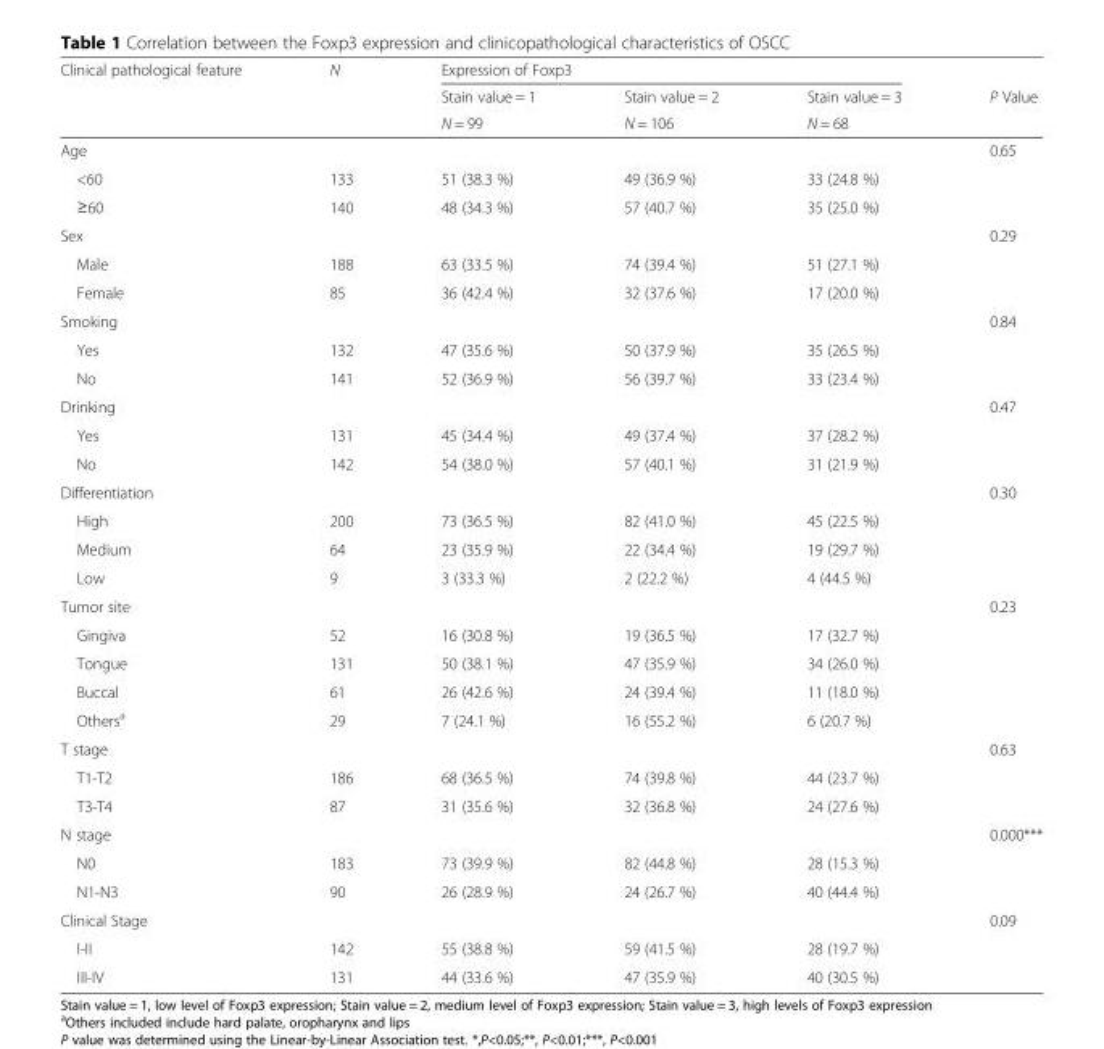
<table><thead><tr><td rowspan="3">Clinical pathological feature</td><td rowspan="3">N</td><td colspan="3">Expression of Foxp3</td><td rowspan="3">P Value</td></tr><tr><td rowspan="2">Stain value = 1 N = 99</td><td rowspan="2">Stain value = 2 N = 106</td><td rowspan="2">Stain value = 3 N = 68</td></tr><tr></tr></thead><tbody><tr><td>Age</td><td></td><td></td><td></td><td></td><td>0.65</td></tr><tr><td>&lt;60</td><td>133</td><td>51 (38.3 %)</td><td>49 (36.9 %)</td><td>33 (24.8 %)</td><td></td></tr><tr><td>≥60</td><td>140</td><td>48 (34.3 %)</td><td>57 (40.7 %)</td><td>35 (25.0 %)</td><td></td></tr><tr><td>Sex</td><td></td><td></td><td></td><td></td><td>0.29</td></tr><tr><td>Male</td><td>188</td><td>63 (33.5 %)</td><td>74 (39.4 %)</td><td>51 (27.1 %)</td><td></td></tr><tr><td>Female</td><td>85</td><td>36 (42.4 %)</td><td>32 (37.6 %)</td><td>17 (20.0 %)</td><td></td></tr><tr><td>Smoking</td><td></td><td></td><td></td><td></td><td>0.84</td></tr><tr><td>Yes</td><td>132</td><td>47 (35.6 %)</td><td>50 (37.9 %)</td><td>35 (26.5 %)</td><td></td></tr><tr><td>No</td><td>141</td><td>52 (36.9 %)</td><td>56 (39.7 %)</td><td>33 (23.4 %)</td><td></td></tr><tr><td>Drinking</td><td></td><td></td><td></td><td></td><td>0.47</td></tr><tr><td>Yes</td><td>131</td><td>45 (34.4 %)</td><td>49 (37.4 %)</td><td>37 (28.2 %)</td><td></td></tr><tr><td>No</td><td>142</td><td>54 (38.0 %)</td><td>57 (40.1 %)</td><td>31 (21.9 %)</td><td></td></tr><tr><td>Differentiation</td><td></td><td></td><td></td><td></td><td>0.30</td></tr><tr><td>High</td><td>200</td><td>73 (36.5 %)</td><td>82 (41.0 %)</td><td>45 (22.5 %)</td><td></td></tr><tr><td>Medium</td><td>64</td><td>23 (35.9 %)</td><td>22 (34.4 %)</td><td>19 (29.7 %)</td><td></td></tr><tr><td>Low</td><td>9</td><td>3 (33.3 %)</td><td>2 (22.2 %)</td><td>4 (44.5 %)</td><td></td></tr><tr><td>Tumor site</td><td></td><td></td><td></td><td></td><td>0.23</td></tr><tr><td>Gingiva</td><td>52</td><td>16 (30.8 %)</td><td>19 (36.5 %)</td><td>17 (32.7 %)</td><td></td></tr><tr><td>Tongue</td><td>131</td><td>50 (38.1 %)</td><td>47 (35.9 %)</td><td>34 (26.0 %)</td><td></td></tr><tr><td>Buccal</td><td>61</td><td>26 (42.6 %)</td><td>24 (39.4 %)</td><td>11 (18.0 %)</td><td></td></tr><tr><td>Others<sup>a</sup></td><td>29</td><td>7 (24.1 %)</td><td>16 (55.2 %)</td><td>6 (20.7 %)</td><td></td></tr><tr><td>T stage</td><td></td><td></td><td></td><td></td><td>0.63</td></tr><tr><td>T1-T2</td><td>186</td><td>68 (36.5 %)</td><td>74 (39.8 %)</td><td>44 (23.7 %)</td><td></td></tr><tr><td>T3-T4</td><td>87</td><td>31 (35.6 %)</td><td>32 (36.8 %)</td><td>24 (27.6 %)</td><td></td></tr><tr><td>N stage</td><td></td><td></td><td></td><td></td><td>0.000***</td></tr><tr><td>N0</td><td>183</td><td>73 (39.9 %)</td><td>82 (44.8 %)</td><td>28 (15.3 %)</td><td></td></tr><tr><td>N1-N3</td><td>90</td><td>26 (28.9 %)</td><td>24 (26.7 %)</td><td>40 (44.4 %)</td><td></td></tr><tr><td>Clinical Stage</td><td></td><td></td><td></td><td></td><td>0.09</td></tr><tr><td>I-II</td><td>142</td><td>55 (38.8 %)</td><td>59 (41.5 %)</td><td>28 (19.7 %)</td><td></td></tr><tr><td>III-IV</td><td>131</td><td>44 (33.6 %)</td><td>47 (35.9 %)</td><td>40 (30.5 %)</td><td></td></tr></tbody></table>